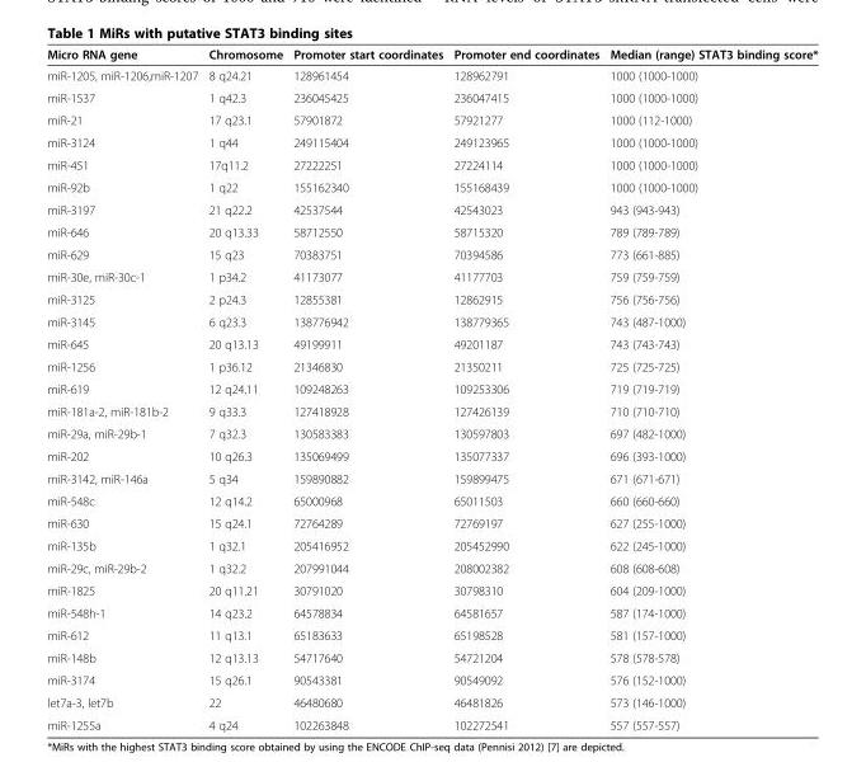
<table><thead><tr><td>Micro RNA gene</td><td>Chromosome</td><td>Promoter start coordinates</td><td>Promoter end coordinates</td><td>Median (range) STAT3 binding score*</td></tr></thead><tbody><tr><td>miR-1205, miR-1206,miR-1207</td><td>8 q24.21</td><td>128961454</td><td>128962791</td><td>1000 (1000-1000)</td></tr><tr><td>miR-1537</td><td>1 q42.3</td><td>236045425</td><td>236047415</td><td>1000 (1000-1000)</td></tr><tr><td>miR-21</td><td>17 q23.1</td><td>57901872</td><td>57921277</td><td>1000 (112-1000)</td></tr><tr><td>miR-3124</td><td>1 q44</td><td>249115404</td><td>249123965</td><td>1000 (1000-1000)</td></tr><tr><td>miR-451</td><td>17q11.2</td><td>27222251</td><td>27224114</td><td>1000 (1000-1000)</td></tr><tr><td>miR-92b</td><td>1 q22</td><td>155162340</td><td>155168439</td><td>1000 (1000-1000)</td></tr><tr><td>miR-3197</td><td>21 q22.2</td><td>42537544</td><td>42543023</td><td>943 (943-943)</td></tr><tr><td>miR-646</td><td>20 q13.33</td><td>58712550</td><td>58715320</td><td>789 (789-789)</td></tr><tr><td>miR-629</td><td>15 q23</td><td>70383751</td><td>70394586</td><td>773 (661-885)</td></tr><tr><td>miR-30e, miR-30c-1</td><td>1 p34.2</td><td>41173077</td><td>41177703</td><td>759 (759-759)</td></tr><tr><td>miR-3125</td><td>2 p24.3</td><td>12855381</td><td>12862915</td><td>756 (756-756)</td></tr><tr><td>miR-3145</td><td>6 q23.3</td><td>138776942</td><td>138779365</td><td>743 (487-1000)</td></tr><tr><td>miR-645</td><td>20 q13.13</td><td>49199911</td><td>49201187</td><td>743 (743-743)</td></tr><tr><td>miR-1256</td><td>1 p36.12</td><td>21346830</td><td>21350211</td><td>725 (725-725)</td></tr><tr><td>miR-619</td><td>12 q24.11</td><td>109248263</td><td>109253306</td><td>719 (719-719)</td></tr><tr><td>miR-181a-2, miR-181b-2</td><td>9 q33.3</td><td>127418928</td><td>127426139</td><td>710 (710-710)</td></tr><tr><td>miR-29a, miR-29b-1</td><td>7 q32.3</td><td>130583383</td><td>130597803</td><td>697 (482-1000)</td></tr><tr><td>miR-202</td><td>10 q26.3</td><td>135069499</td><td>135077337</td><td>696 (393-1000)</td></tr><tr><td>miR-3142, miR-146a</td><td>5 q34</td><td>159890882</td><td>159899475</td><td>671 (671-671)</td></tr><tr><td>miR-548c</td><td>12 q14.2</td><td>65000968</td><td>65011503</td><td>660 (660-660)</td></tr><tr><td>miR-630</td><td>15 q24.1</td><td>72764289</td><td>72769197</td><td>627 (255-1000)</td></tr><tr><td>miR-135b</td><td>1 q32.1</td><td>205416952</td><td>205452990</td><td>622 (245-1000)</td></tr><tr><td>miR-29c, miR-29b-2</td><td>1 q32.2</td><td>207991044</td><td>208002382</td><td>608 (608-608)</td></tr><tr><td>miR-1825</td><td>20 q11.21</td><td>30791020</td><td>30798310</td><td>604 (209-1000)</td></tr><tr><td>miR-548h-1</td><td>14 q23.2</td><td>64578834</td><td>64581657</td><td>587 (174-1000)</td></tr><tr><td>miR-612</td><td>11 q13.1</td><td>65183633</td><td>65198528</td><td>581 (157-1000)</td></tr><tr><td>miR-148b</td><td>12 q13.13</td><td>54717640</td><td>54721204</td><td>578 (578-578)</td></tr><tr><td>miR-3174</td><td>15 q26.1</td><td>90543381</td><td>90549092</td><td>576 (152-1000)</td></tr><tr><td>let7a-3, let7b</td><td>22</td><td>46480680</td><td>46481826</td><td>573 (146-1000)</td></tr><tr><td>miR-1255a</td><td>4 q24</td><td>102263848</td><td>102272541</td><td>557 (557-557)</td></tr></tbody></table>